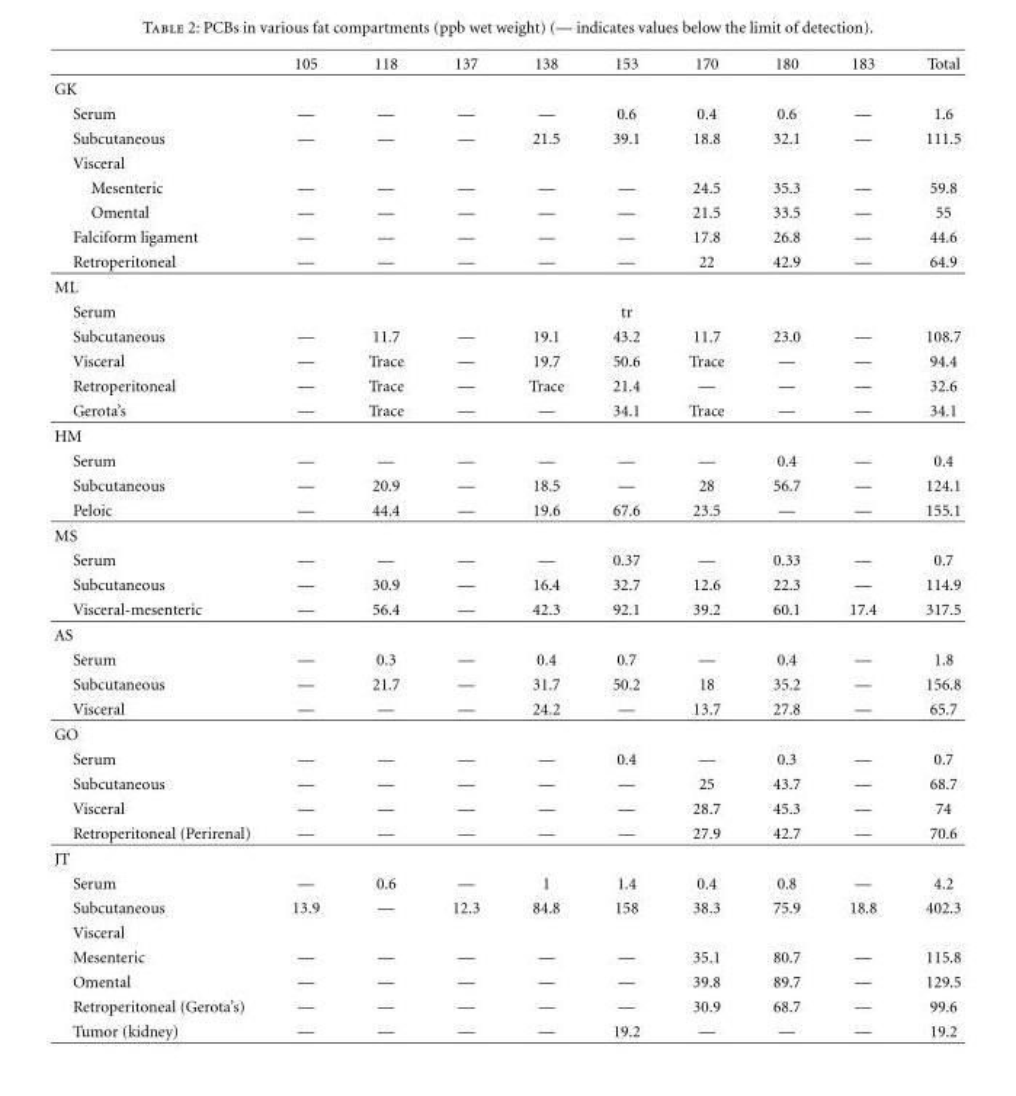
<table><thead><tr><td></td><td>105</td><td>118</td><td>137</td><td>138</td><td>153</td><td>170</td><td>180</td><td>183</td><td>Total</td></tr></thead><tbody><tr><td colspan="10">GK</td></tr><tr><td>Serum</td><td>—</td><td>—</td><td>—</td><td>—</td><td>0.6</td><td>0.4</td><td>0.6</td><td>—</td><td>1.6</td></tr><tr><td>Subcutaneous</td><td>—</td><td>—</td><td>—</td><td>21.5</td><td>39.1</td><td>18.8</td><td>32.1</td><td>—</td><td>111.5</td></tr><tr><td colspan="10">Visceral</td></tr><tr><td>Mesenteric</td><td>—</td><td>—</td><td>—</td><td>—</td><td>—</td><td>24.5</td><td>35.3</td><td>—</td><td>59.8</td></tr><tr><td>Omental</td><td>—</td><td>—</td><td>—</td><td>—</td><td>—</td><td>21.5</td><td>33.5</td><td>—</td><td>55</td></tr><tr><td>Falciform ligament</td><td>—</td><td>—</td><td>—</td><td>—</td><td>—</td><td>17.8</td><td>26.8</td><td>—</td><td>44.6</td></tr><tr><td>Retroperitoneal</td><td>—</td><td>—</td><td>—</td><td>—</td><td>—</td><td>22</td><td>42.9</td><td>—</td><td>64.9</td></tr><tr><td colspan="10">ML</td></tr><tr><td>Serum</td><td></td><td></td><td></td><td></td><td>tr</td><td></td><td></td><td></td><td></td></tr><tr><td>Subcutaneous</td><td>—</td><td>11.7</td><td>—</td><td>19.1</td><td>43.2</td><td>11.7</td><td>23.0</td><td>—</td><td>108.7</td></tr><tr><td>Visceral</td><td>—</td><td>Trace</td><td>—</td><td>19.7</td><td>50.6</td><td>Trace</td><td>—</td><td>—</td><td>94.4</td></tr><tr><td>Retroperitoneal</td><td>—</td><td>Trace</td><td>—</td><td>Trace</td><td>21.4</td><td>—</td><td>—</td><td>—</td><td>32.6</td></tr><tr><td>Gerota’s</td><td>—</td><td>Trace</td><td>—</td><td>—</td><td>34.1</td><td>Trace</td><td>—</td><td>—</td><td>34.1</td></tr><tr><td colspan="10">HM</td></tr><tr><td>Serum</td><td>—</td><td>—</td><td>—</td><td>—</td><td>—</td><td>—</td><td>0.4</td><td>—</td><td>0.4</td></tr><tr><td>Subcutaneous</td><td>—</td><td>20.9</td><td>—</td><td>18.5</td><td>—</td><td>28</td><td>56.7</td><td>—</td><td>124.1</td></tr><tr><td>Peloic</td><td>—</td><td>44.4</td><td>—</td><td>19.6</td><td>67.6</td><td>23.5</td><td>—</td><td>—</td><td>155.1</td></tr><tr><td colspan="10">MS</td></tr><tr><td>Serum</td><td>—</td><td>—</td><td>—</td><td>—</td><td>0.37</td><td>—</td><td>0.33</td><td>—</td><td>0.7</td></tr><tr><td>Subcutaneous</td><td>—</td><td>30.9</td><td>—</td><td>16.4</td><td>32.7</td><td>12.6</td><td>22.3</td><td>—</td><td>114.9</td></tr><tr><td>Visceral-mesenteric</td><td>—</td><td>56.4</td><td>—</td><td>42.3</td><td>92.1</td><td>39.2</td><td>60.1</td><td>17.4</td><td>317.5</td></tr><tr><td colspan="10">AS</td></tr><tr><td>Serum</td><td>—</td><td>0.3</td><td>—</td><td>0.4</td><td>0.7</td><td>—</td><td>0.4</td><td>—</td><td>1.8</td></tr><tr><td>Subcutaneous</td><td>—</td><td>21.7</td><td>—</td><td>31.7</td><td>50.2</td><td>18</td><td>35.2</td><td>—</td><td>156.8</td></tr><tr><td>Visceral</td><td>—</td><td>—</td><td>—</td><td>24.2</td><td>—</td><td>13.7</td><td>27.8</td><td>—</td><td>65.7</td></tr><tr><td colspan="10">GO</td></tr><tr><td>Serum</td><td>—</td><td>—</td><td>—</td><td>—</td><td>0.4</td><td>—</td><td>0.3</td><td>—</td><td>0.7</td></tr><tr><td>Subcutaneous</td><td>—</td><td>—</td><td>—</td><td>—</td><td>—</td><td>25</td><td>43.7</td><td>—</td><td>68.7</td></tr><tr><td>Visceral</td><td>—</td><td>—</td><td>—</td><td>—</td><td>—</td><td>28.7</td><td>45.3</td><td>—</td><td>74</td></tr><tr><td>Retroperitoneal (Perirenal)</td><td>—</td><td>—</td><td>—</td><td>—</td><td>—</td><td>27.9</td><td>42.7</td><td>—</td><td>70.6</td></tr><tr><td colspan="10">JT</td></tr><tr><td>Serum</td><td>—</td><td>0.6</td><td>—</td><td>1</td><td>1.4</td><td>0.4</td><td>0.8</td><td>—</td><td>4.2</td></tr><tr><td>Subcutaneous</td><td>13.9</td><td>—</td><td>12.3</td><td>84.8</td><td>158</td><td>38.3</td><td>75.9</td><td>18.8</td><td>402.3</td></tr><tr><td colspan="10">Visceral</td></tr><tr><td>Mesenteric</td><td>—</td><td>—</td><td>—</td><td>—</td><td>—</td><td>35.1</td><td>80.7</td><td>—</td><td>115.8</td></tr><tr><td>Omental</td><td>—</td><td>—</td><td>—</td><td>—</td><td>—</td><td>39.8</td><td>89.7</td><td>—</td><td>129.5</td></tr><tr><td>Retroperitoneal (Gerota’s)</td><td>—</td><td>—</td><td>—</td><td>—</td><td>—</td><td>30.9</td><td>68.7</td><td>—</td><td>99.6</td></tr><tr><td>Tumor (kidney)</td><td>—</td><td>—</td><td>—</td><td>—</td><td>19.2</td><td>—</td><td>—</td><td>—</td><td>19.2</td></tr></tbody></table>